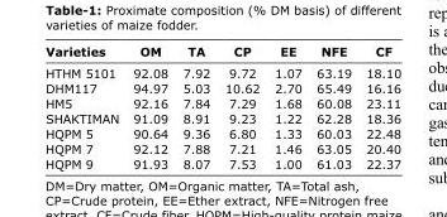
<table><thead><tr><td>Varieties</td><td>OM</td><td>TA</td><td>CP</td><td>EE</td><td>NFE</td><td>CF</td></tr></thead><tbody><tr><td>HTHM 5101</td><td>92.08</td><td>7.92</td><td>9.72</td><td>1.07</td><td>63.19</td><td>18.10</td></tr><tr><td>DHM117</td><td>94.97</td><td>5.03</td><td>10.62</td><td>2.70</td><td>65.49</td><td>16.16</td></tr><tr><td>HM5</td><td>92.16</td><td>7.84</td><td>7.29</td><td>1.68</td><td>60.08</td><td>23.11</td></tr><tr><td>SHAKTIMAN</td><td>91.09</td><td>8.91</td><td>9.23</td><td>1.22</td><td>62.28</td><td>18.36</td></tr><tr><td>HQPM 5</td><td>90.64</td><td>9.36</td><td>6.80</td><td>1.33</td><td>60.03</td><td>22.48</td></tr><tr><td>HQPM 7</td><td>92.12</td><td>7.88</td><td>7.21</td><td>1.46</td><td>63.05</td><td>20.40</td></tr><tr><td>HQPM 9</td><td>91.93</td><td>8.07</td><td>7.53</td><td>1.00</td><td>61.03</td><td>22.37</td></tr></tbody></table>